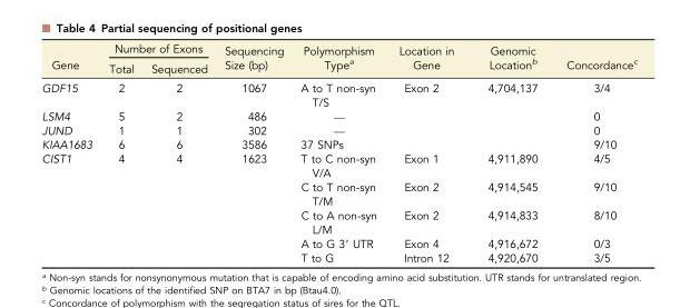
<table><thead><tr><td rowspan="2">Gene</td><td colspan="2">Number of Exons</td><td rowspan="2">Sequencing Size (bp)</td><td rowspan="2">Polymorphism Typea</td><td rowspan="2">Location in Gene</td><td rowspan="2">Genomic Locationb</td><td rowspan="2">Concordancec</td></tr><tr><td>Total</td><td>Sequenced</td></tr></thead><tbody><tr><td>GDF15</td><td>2</td><td>2</td><td>1067</td><td>A to T non-syn T/S</td><td>Exon 2</td><td>4,704,137</td><td>3/4</td></tr><tr><td>LSM4</td><td>5</td><td>2</td><td>486</td><td>—</td><td></td><td></td><td>0</td></tr><tr><td>JUND</td><td>1</td><td>1</td><td>302</td><td>—</td><td></td><td></td><td>0</td></tr><tr><td>KIAA1683</td><td>6</td><td>6</td><td>3586</td><td>37 SNPs</td><td></td><td></td><td>9/10</td></tr><tr><td rowspan="5">CIST1</td><td>4</td><td>4</td><td>1623</td><td>T to C non-syn V/A</td><td>Exon 1</td><td>4,911,890</td><td>4/5</td></tr><tr><td></td><td></td><td></td><td>C to T non-syn T/M</td><td>Exon 2</td><td>4,914,545</td><td>9/10</td></tr><tr><td></td><td></td><td></td><td>C to A non-syn L/M</td><td>Exon 2</td><td>4,914,833</td><td>8/10</td></tr><tr><td></td><td></td><td></td><td>A to G 3′ UTR</td><td>Exon 4</td><td>4,916,672</td><td>0/3</td></tr><tr><td></td><td></td><td></td><td>T to G</td><td>Intron 12</td><td>4,920,670</td><td>3/5</td></tr></tbody></table>